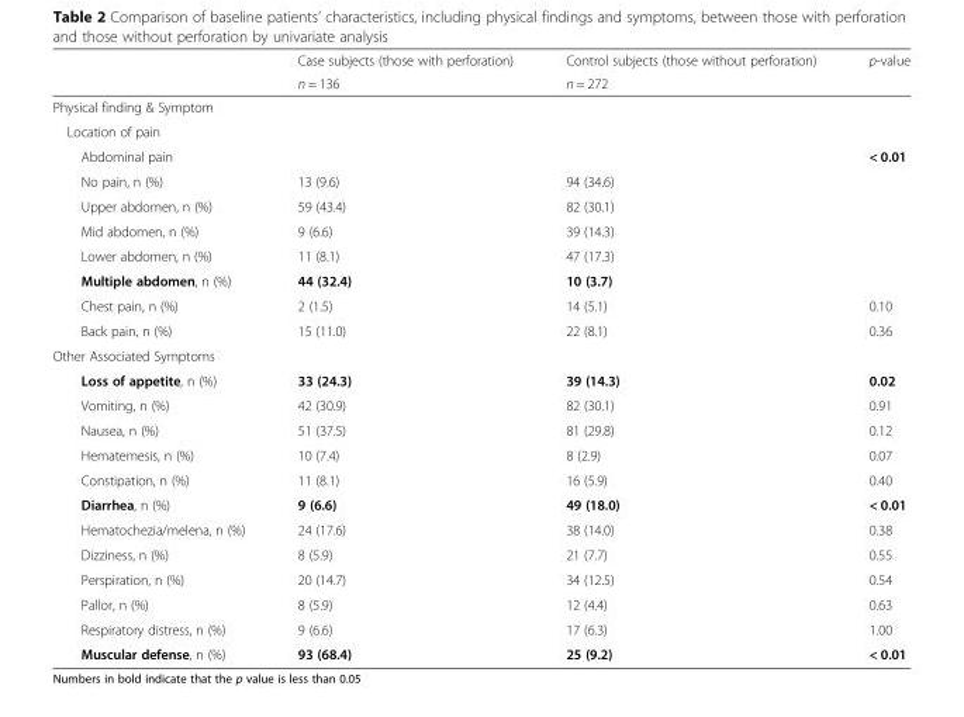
<table><thead><tr><td rowspan="2"></td><td rowspan="2">Case subjects (those with perforation) n = 136</td><td rowspan="2">Control subjects (those without perforation) n = 272</td><td rowspan="2">p-value</td></tr><tr></tr></thead><tbody><tr><td colspan="4">Physical finding &amp; Symptom</td></tr><tr><td colspan="4">Location of pain</td></tr><tr><td>Abdominal pain</td><td></td><td></td><td>&lt; 0.01</td></tr><tr><td>No pain, n (%)</td><td>13 (9.6)</td><td>94 (34.6)</td><td></td></tr><tr><td>Upper abdomen, n (%)</td><td>59 (43.4)</td><td>82 (30.1)</td><td></td></tr><tr><td>Mid abdomen, n (%)</td><td>9 (6.6)</td><td>39 (14.3)</td><td></td></tr><tr><td>Lower abdomen, n (%)</td><td>11 (8.1)</td><td>47 (17.3)</td><td></td></tr><tr><td>Multiple abdomen, n (%)</td><td>44 (32.4)</td><td>10 (3.7)</td><td></td></tr><tr><td>Chest pain, n (%)</td><td>2 (1.5)</td><td>14 (5.1)</td><td>0.10</td></tr><tr><td>Back pain, n (%)</td><td>15 (11.0)</td><td>22 (8.1)</td><td>0.36</td></tr><tr><td colspan="4">Other Associated Symptoms</td></tr><tr><td>Loss of appetite, n (%)</td><td>33 (24.3)</td><td>39 (14.3)</td><td>0.02</td></tr><tr><td>Vomiting, n (%)</td><td>42 (30.9)</td><td>82 (30.1)</td><td>0.91</td></tr><tr><td>Nausea, n (%)</td><td>51 (37.5)</td><td>81 (29.8)</td><td>0.12</td></tr><tr><td>Hematemesis, n (%)</td><td>10 (7.4)</td><td>8 (2.9)</td><td>0.07</td></tr><tr><td>Constipation, n (%)</td><td>11 (8.1)</td><td>16 (5.9)</td><td>0.40</td></tr><tr><td>Diarrhea, n (%)</td><td>9 (6.6)</td><td>49 (18.0)</td><td>&lt; 0.01</td></tr><tr><td>Hematochezia/melena, n (%)</td><td>24 (17.6)</td><td>38 (14.0)</td><td>0.38</td></tr><tr><td>Dizziness, n (%)</td><td>8 (5.9)</td><td>21 (7.7)</td><td>0.55</td></tr><tr><td>Perspiration, n (%)</td><td>20 (14.7)</td><td>34 (12.5)</td><td>0.54</td></tr><tr><td>Pallor, n (%)</td><td>8 (5.9)</td><td>12 (4.4)</td><td>0.63</td></tr><tr><td>Respiratory distress, n (%)</td><td>9 (6.6)</td><td>17 (6.3)</td><td>1.00</td></tr><tr><td>Muscular defense, n (%)</td><td>93 (68.4)</td><td>25 (9.2)</td><td>&lt; 0.01</td></tr></tbody></table>